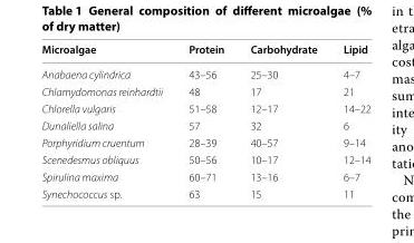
<table><thead><tr><td>Microalgae</td><td>Protein</td><td>Carbohydrate</td><td>Lipid</td></tr></thead><tbody><tr><td>Anabaena cylindrica</td><td>43–56</td><td>25–30</td><td>4–7</td></tr><tr><td>Chlamydomonas reinhardtii</td><td>48</td><td>17</td><td>21</td></tr><tr><td>Chlorella vulgaris</td><td>51–58</td><td>12–17</td><td>14–22</td></tr><tr><td>Dunaliella salina</td><td>57</td><td>32</td><td>6</td></tr><tr><td>Porphyridium cruentum</td><td>28–39</td><td>40–57</td><td>9–14</td></tr><tr><td>Scenedesmus obliquus</td><td>50–56</td><td>10–17</td><td>12–14</td></tr><tr><td>Spirulina maxima</td><td>60–71</td><td>13–16</td><td>6–7</td></tr><tr><td>Synechococcus sp.</td><td>63</td><td>15</td><td>11</td></tr></tbody></table>